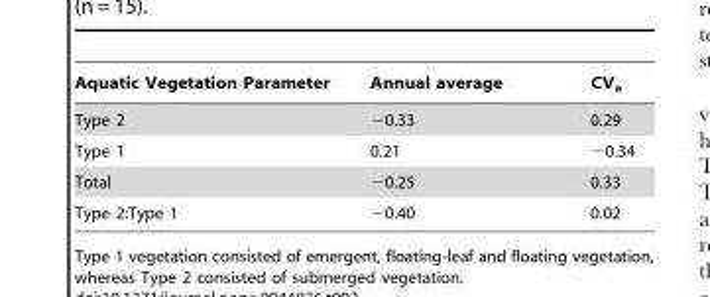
<table><thead><tr><td>Aquatic Vegetation Parameter</td><td>Annual average</td><td>CV<sub>a</sub></td></tr></thead><tbody><tr><td>Type 2</td><td>−0.33</td><td>0.29</td></tr><tr><td>Type 1</td><td>0.21</td><td>−0.34</td></tr><tr><td>Total</td><td>−0.25</td><td>0.33</td></tr><tr><td>Type 2:Type 1</td><td>−0.40</td><td>0.02</td></tr></tbody></table>